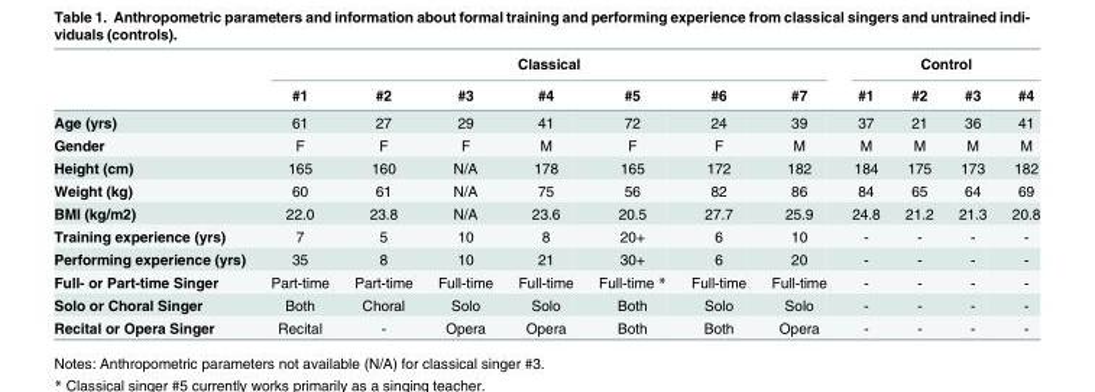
<table><thead><tr><td rowspan="2"></td><td colspan="7">Classical</td><td colspan="4">Control</td></tr><tr><td>#1</td><td>#2</td><td>#3</td><td>#4</td><td>#5</td><td>#6</td><td>#7</td><td>#1</td><td>#2</td><td>#3</td><td>#4</td></tr></thead><tbody><tr><td>Age (yrs)</td><td>61</td><td>27</td><td>29</td><td>41</td><td>72</td><td>24</td><td>39</td><td>37</td><td>21</td><td>36</td><td>41</td></tr><tr><td>Gender</td><td>F</td><td>F</td><td>F</td><td>M</td><td>F</td><td>F</td><td>M</td><td>M</td><td>M</td><td>M</td><td>M</td></tr><tr><td>Height (cm)</td><td>165</td><td>160</td><td>N/A</td><td>178</td><td>165</td><td>172</td><td>182</td><td>184</td><td>175</td><td>173</td><td>182</td></tr><tr><td>Weight (kg)</td><td>60</td><td>61</td><td>N/A</td><td>75</td><td>56</td><td>82</td><td>86</td><td>84</td><td>65</td><td>64</td><td>69</td></tr><tr><td>BMI (kg/m2)</td><td>22.0</td><td>23.8</td><td>N/A</td><td>23.6</td><td>20.5</td><td>27.7</td><td>25.9</td><td>24.8</td><td>21.2</td><td>21.3</td><td>20.8</td></tr><tr><td>Training experience (yrs)</td><td>7</td><td>5</td><td>10</td><td>8</td><td>20+</td><td>6</td><td>10</td><td>-</td><td>-</td><td>-</td><td>-</td></tr><tr><td>Performing experience (yrs)</td><td>35</td><td>8</td><td>10</td><td>21</td><td>30+</td><td>6</td><td>20</td><td>-</td><td>-</td><td>-</td><td>-</td></tr><tr><td>Full- or Part-time Singer</td><td>Part-time</td><td>Part-time</td><td>Full-time</td><td>Full-time</td><td>Full-time *</td><td>Full-time</td><td>Full-time</td><td>-</td><td>-</td><td>-</td><td>-</td></tr><tr><td>Solo or Choral Singer</td><td>Both</td><td>Choral</td><td>Solo</td><td>Solo</td><td>Both</td><td>Solo</td><td>Solo</td><td>-</td><td>-</td><td>-</td><td>-</td></tr><tr><td>Recital or Opera Singer</td><td>Recital</td><td>-</td><td>Opera</td><td>Opera</td><td>Both</td><td>Both</td><td>Opera</td><td>-</td><td>-</td><td>-</td><td>-</td></tr></tbody></table>